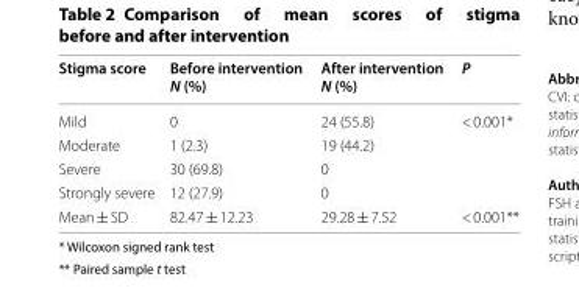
<table><thead><tr><td>Stigma score</td><td>Before intervention N (%)</td><td>After intervention N (%)</td><td>P</td></tr></thead><tbody><tr><td>Mild</td><td>0</td><td>24 (55.8)</td><td rowspan="3">&lt; 0.001*</td></tr><tr><td>Moderate</td><td>1 (2.3)</td><td>19 (44.2)</td></tr><tr><td>Severe</td><td>30 (69.8)</td><td>0</td></tr><tr><td>Strongly severe</td><td>12 (27.9)</td><td>0</td><td></td></tr><tr><td>Mean ± SD</td><td>82.47 ± 12.23</td><td>29.28 ± 7.52</td><td>&lt; 0.001**</td></tr></tbody></table>